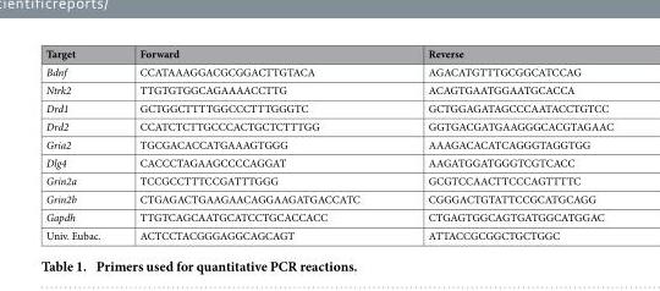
<table><thead><tr><td>Target</td><td>Forward</td><td>Reverse</td></tr></thead><tbody><tr><td>Bdnf</td><td>CCATAAAGGACGCGGACTTGTACA</td><td>AGACATGTTTGCGGCATCCAG</td></tr><tr><td>Ntrk2</td><td>TTGTGTGGCAGAAAACCTTG</td><td>ACAGTGAATGGAATGCACCA</td></tr><tr><td>Drd1</td><td>GCTGGCTTTTGGCCCTTTGGGTC</td><td>GCTGGAGATAGCCCAATACCTGTCC</td></tr><tr><td>Drd2</td><td>CCATCTCTTGCCCACTGCTCTTTGG</td><td>GGTGACGATGAAGGGCACGTAGAAC</td></tr><tr><td>Gria2</td><td>TGCGACACCATGAAAGTGGG</td><td>AAAGACACATCAGGGTAGGTGG</td></tr><tr><td>Dlg4</td><td>CACCCTAGAAGCCCCAGGAT</td><td>AAGATGGATGGGTCGTCACC</td></tr><tr><td>Grin2a</td><td>TCCGCCTTTCCGATTTGGG</td><td>GCGTCCAACTTCCCAGTTTTC</td></tr><tr><td>Grin2b</td><td>CTGAGACTGAAGAACAGGAAGATGACCATC</td><td>CGGGACTGTATTCCGCATGCAGG</td></tr><tr><td>Gapdh</td><td>TTGTCAGCAATGCATCCTGCACCACC</td><td>CTGAGTGGCAGTGATGGCATGGAC</td></tr><tr><td>Univ. Eubac.</td><td>ACTCCTACGGGAGGCAGCAGT</td><td>ATTACCGCGGCTGCTGGC</td></tr></tbody></table>